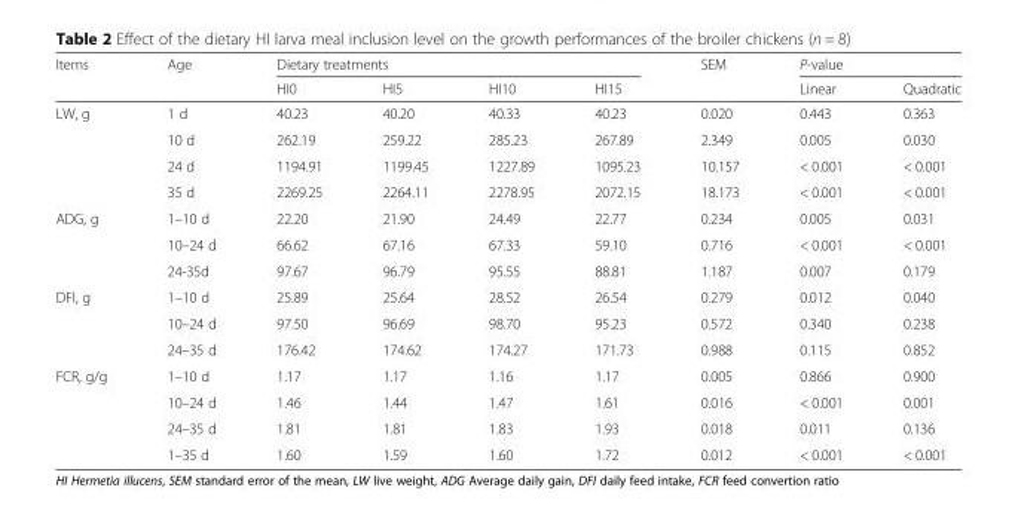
<table><thead><tr><td rowspan="2">Items</td><td rowspan="2">Age</td><td colspan="4">Dietary treatments</td><td rowspan="2">SEM</td><td colspan="2">P-value</td></tr><tr><td>HI0</td><td>HI5</td><td>HI10</td><td>HI15</td><td>Linear</td><td>Quadratic</td></tr></thead><tbody><tr><td rowspan="4">LW, g</td><td>1 d</td><td>40.23</td><td>40.20</td><td>40.33</td><td>40.23</td><td>0.020</td><td>0.443</td><td>0.363</td></tr><tr><td>10 d</td><td>262.19</td><td>259.22</td><td>285.23</td><td>267.89</td><td>2.349</td><td>0.005</td><td>0.030</td></tr><tr><td>24 d</td><td>1194.91</td><td>1199.45</td><td>1227.89</td><td>1095.23</td><td>10.157</td><td>&lt; 0.001</td><td>&lt; 0.001</td></tr><tr><td>35 d</td><td>2269.25</td><td>2264.11</td><td>2278.95</td><td>2072.15</td><td>18.173</td><td>&lt; 0.001</td><td>&lt; 0.001</td></tr><tr><td rowspan="3">ADG, g</td><td>1–10 d</td><td>22.20</td><td>21.90</td><td>24.49</td><td>22.77</td><td>0.234</td><td>0.005</td><td>0.031</td></tr><tr><td>10–24 d</td><td>66.62</td><td>67.16</td><td>67.33</td><td>59.10</td><td>0.716</td><td>&lt; 0.001</td><td>&lt; 0.001</td></tr><tr><td>24-35d</td><td>97.67</td><td>96.79</td><td>95.55</td><td>88.81</td><td>1.187</td><td>0.007</td><td>0.179</td></tr><tr><td rowspan="3">DFI, g</td><td>1–10 d</td><td>25.89</td><td>25.64</td><td>28.52</td><td>26.54</td><td>0.279</td><td>0.012</td><td>0.040</td></tr><tr><td>10–24 d</td><td>97.50</td><td>96.69</td><td>98.70</td><td>95.23</td><td>0.572</td><td>0.340</td><td>0.238</td></tr><tr><td>24–35 d</td><td>176.42</td><td>174.62</td><td>174.27</td><td>171.73</td><td>0.988</td><td>0.115</td><td>0.852</td></tr><tr><td rowspan="4">FCR, g/g</td><td>1–10 d</td><td>1.17</td><td>1.17</td><td>1.16</td><td>1.17</td><td>0.005</td><td>0.866</td><td>0.900</td></tr><tr><td>10–24 d</td><td>1.46</td><td>1.44</td><td>1.47</td><td>1.61</td><td>0.016</td><td>&lt; 0.001</td><td>0.001</td></tr><tr><td>24–35 d</td><td>1.81</td><td>1.81</td><td>1.83</td><td>1.93</td><td>0.018</td><td>0.011</td><td>0.136</td></tr><tr><td>1–35 d</td><td>1.60</td><td>1.59</td><td>1.60</td><td>1.72</td><td>0.012</td><td>&lt; 0.001</td><td>&lt; 0.001</td></tr></tbody></table>